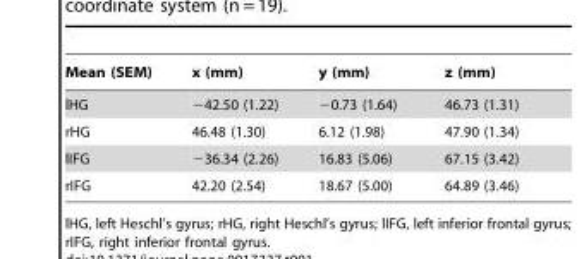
<table><thead><tr><td>Mean (SEM)</td><td>x (mm)</td><td>y (mm)</td><td>z (mm)</td></tr></thead><tbody><tr><td>lHG</td><td>−42.50 (1.22)</td><td>−0.73 (1.64)</td><td>46.73 (1.31)</td></tr><tr><td>rHG</td><td>46.48 (1.30)</td><td>6.12 (1.98)</td><td>47.90 (1.34)</td></tr><tr><td>lIFG</td><td>−36.34 (2.26)</td><td>16.83 (5.06)</td><td>67.15 (3.42)</td></tr><tr><td>rIFG</td><td>42.20 (2.54)</td><td>18.67 (5.00)</td><td>64.89 (3.46)</td></tr></tbody></table>